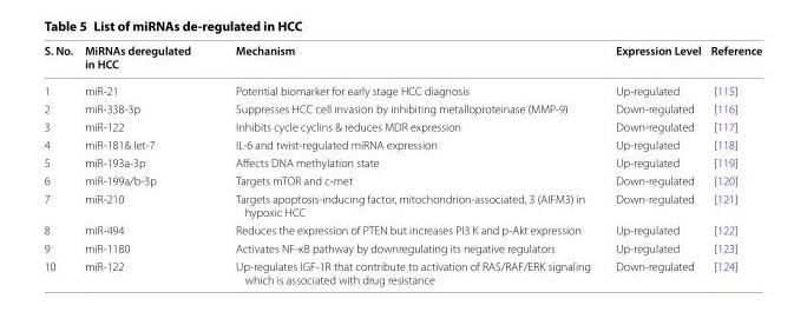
<table><thead><tr><td>S. No.</td><td>MiRNAs deregulated in HCC</td><td>Mechanism</td><td>Expression Level</td><td>Reference</td></tr></thead><tbody><tr><td>1</td><td>miR‑21</td><td>Potential biomarker for early stage HCC diagnosis</td><td>Up‑regulated</td><td>[115]</td></tr><tr><td>2</td><td>miR‑338‑3p</td><td>Suppresses HCC cell invasion by inhibiting metalloproteinase (MMP‑9)</td><td>Down‑regulated</td><td>[116]</td></tr><tr><td>3</td><td>miR‑122</td><td>Inhibits cycle cyclins &amp; reduces MDR expression</td><td>Down‑regulated</td><td>[117]</td></tr><tr><td>4</td><td>miR‑181&amp; let‑7</td><td>IL‑6 and twist‑regulated miRNA expression</td><td>Up‑regulated</td><td>[118]</td></tr><tr><td>5</td><td>miR‑193a‑3p</td><td>Affects DNA methylation state</td><td>Up‑regulated</td><td>[119]</td></tr><tr><td>6</td><td>miR‑199a/b‑3p</td><td>Targets mTOR and c‑met</td><td>Down‑regulated</td><td>[120]</td></tr><tr><td>7</td><td>miR‑210</td><td>Targets apoptosis‑inducing factor, mitochondrion‑associated, 3 (AIFM3) in hypoxic HCC</td><td>Down‑regulated</td><td>[121]</td></tr><tr><td>8</td><td>miR‑494</td><td>Reduces the expression of PTEN but increases PI3 K and p‑Akt expression</td><td>Up‑regulated</td><td>[122]</td></tr><tr><td>9</td><td>miR‑1180</td><td>Activates NF‑κB pathway by downregulating its negative regulators</td><td>Up‑regulated</td><td>[123]</td></tr><tr><td>10</td><td>miR‑122</td><td>Up‑regulates IGF‑1R that contribute to activation of RAS/RAF/ERK signaling which is associated with drug resistance</td><td>Down‑regulated</td><td>[124]</td></tr></tbody></table>